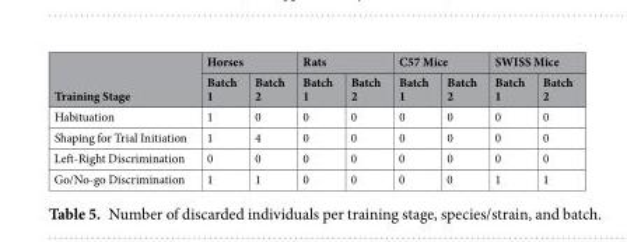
<table><thead><tr><td rowspan="2">Training Stage</td><td colspan="2">Horses</td><td colspan="2">Rats</td><td colspan="2">C57 Mice</td><td colspan="2">SWISS Mice</td></tr><tr><td>Batch 1</td><td>Batch 2</td><td>Batch 1</td><td>Batch 2</td><td>Batch 1</td><td>Batch 2</td><td>Batch 1</td><td>Batch 2</td></tr></thead><tbody><tr><td>Habituation</td><td>1</td><td>0</td><td>0</td><td>0</td><td>0</td><td>0</td><td>0</td><td>0</td></tr><tr><td>Shaping for Trial Initiation</td><td>1</td><td>4</td><td>0</td><td>0</td><td>0</td><td>0</td><td>0</td><td>0</td></tr><tr><td>Left-Right Discrimination</td><td>0</td><td>0</td><td>0</td><td>0</td><td>0</td><td>0</td><td>0</td><td>0</td></tr><tr><td>Go/No-go Discrimination</td><td>1</td><td>1</td><td>0</td><td>0</td><td>0</td><td>0</td><td>1</td><td>1</td></tr></tbody></table>